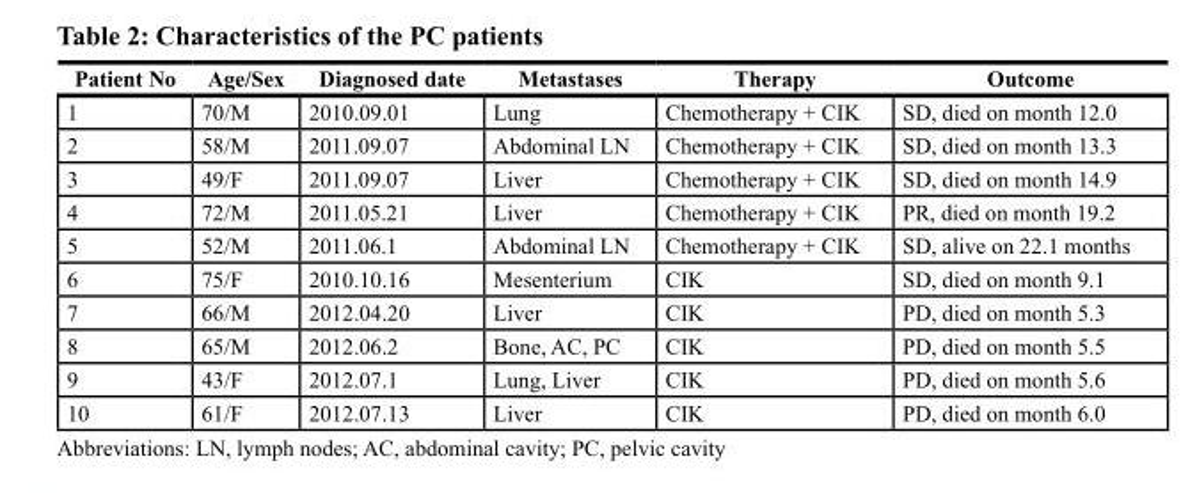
<table><thead><tr><td>Patient No</td><td>Age/Sex</td><td>Diagnosed date</td><td>Metastases</td><td>Therapy</td><td>Outcome</td></tr></thead><tbody><tr><td>1</td><td>70/M</td><td>2010.09.01</td><td>Lung</td><td>Chemotherapy + CIK</td><td>SD, died on month 12.0</td></tr><tr><td>2</td><td>58/M</td><td>2011.09.07</td><td>Abdominal LN</td><td>Chemotherapy + CIK</td><td>SD, died on month 13.3</td></tr><tr><td>3</td><td>49/F</td><td>2011.09.07</td><td>Liver</td><td>Chemotherapy + CIK</td><td>SD, died on month 14.9</td></tr><tr><td>4</td><td>72/M</td><td>2011.05.21</td><td>Liver</td><td>Chemotherapy + CIK</td><td>PR, died on month 19.2</td></tr><tr><td>5</td><td>52/M</td><td>2011.06.1</td><td>Abdominal LN</td><td>Chemotherapy + CIK</td><td>SD, alive on 22.1 months</td></tr><tr><td>6</td><td>75/F</td><td>2010.10.16</td><td>Mesenterium</td><td>CIK</td><td>SD, died on month 9.1</td></tr><tr><td>7</td><td>66/M</td><td>2012.04.20</td><td>Liver</td><td>CIK</td><td>PD, died on month 5.3</td></tr><tr><td>8</td><td>65/M</td><td>2012.06.2</td><td>Bone, AC, PC</td><td>CIK</td><td>PD, died on month 5.5</td></tr><tr><td>9</td><td>43/F</td><td>2012.07.1</td><td>Lung, Liver</td><td>CIK</td><td>PD, died on month 5.6</td></tr><tr><td>10</td><td>61/F</td><td>2012.07.13</td><td>Liver</td><td>CIK</td><td>PD, died on month 6.0</td></tr></tbody></table>